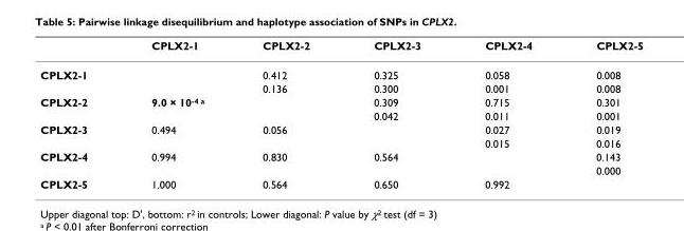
<table><thead><tr><td></td><td>CPLX2-1</td><td>CPLX2-2</td><td>CPLX2-3</td><td>CPLX2-4</td><td>CPLX2-5</td></tr></thead><tbody><tr><td rowspan="2">CPLX2-1</td><td></td><td>0.412</td><td>0.325</td><td>0.058</td><td>0.008</td></tr><tr><td></td><td>0.136</td><td>0.300</td><td>0.001</td><td>0.008</td></tr><tr><td rowspan="2">CPLX2-2</td><td>9.0 × 10<sup>-4 a</sup></td><td></td><td>0.309</td><td>0.715</td><td>0.301</td></tr><tr><td></td><td></td><td>0.042</td><td>0.011</td><td>0.001</td></tr><tr><td rowspan="2">CPLX2-3</td><td>0.494</td><td>0.056</td><td></td><td>0.027</td><td>0.019</td></tr><tr><td></td><td></td><td></td><td>0.015</td><td>0.016</td></tr><tr><td rowspan="2">CPLX2-4</td><td>0.994</td><td>0.830</td><td>0.564</td><td></td><td>0.143</td></tr><tr><td></td><td></td><td></td><td></td><td>0.000</td></tr><tr><td>CPLX2-5</td><td>1.000</td><td>0.564</td><td>0.650</td><td>0.992</td><td></td></tr></tbody></table>